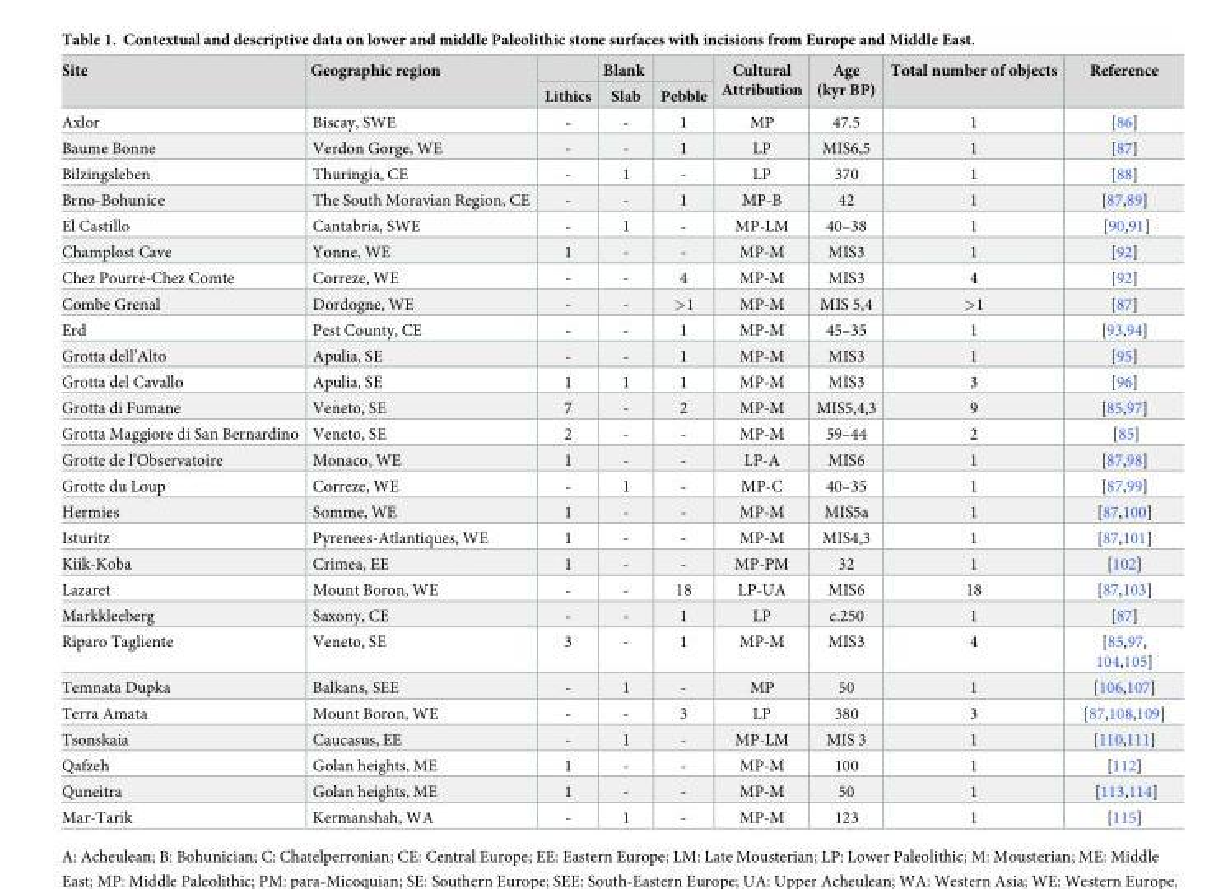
<table><thead><tr><td rowspan="2">Site</td><td rowspan="2">Geographic region</td><td rowspan="2">Lithics</td><td rowspan="2">Blank Slab</td><td rowspan="2">Pebble</td><td rowspan="2">Cultural Attribution</td><td rowspan="2">Age (kyr BP)</td><td rowspan="2">Total number of objects</td><td rowspan="2">Reference</td></tr><tr></tr></thead><tbody><tr><td>Axlor</td><td>Biscay, SWE</td><td>-</td><td>-</td><td>1</td><td>MP</td><td>47.5</td><td>1</td><td>[86]</td></tr><tr><td>Baume Bonne</td><td>Verdon Gorge, WE</td><td>-</td><td>-</td><td>1</td><td>LP</td><td>MIS6,5</td><td>1</td><td>[87]</td></tr><tr><td>Bilzingsleben</td><td>Thuringia, CE</td><td>-</td><td>1</td><td>-</td><td>LP</td><td>370</td><td>1</td><td>[88]</td></tr><tr><td>Brno-Bohunice</td><td>The South Moravian Region, CE</td><td>-</td><td>-</td><td>1</td><td>MP-B</td><td>42</td><td>1</td><td>[87,89]</td></tr><tr><td>El Castillo</td><td>Cantabria, SWE</td><td>-</td><td>1</td><td>-</td><td>MP-LM</td><td>40–38</td><td>1</td><td>[90,91]</td></tr><tr><td>Champlost Cave</td><td>Yonne, WE</td><td>1</td><td>-</td><td>-</td><td>MP-M</td><td>MIS3</td><td>1</td><td>[92]</td></tr><tr><td>Chez Pourre´-Chez Comte</td><td>Correze, WE</td><td>-</td><td>-</td><td>4</td><td>MP-M</td><td>MIS3</td><td>4</td><td>[92]</td></tr><tr><td>Combe Grenal</td><td>Dordogne, WE</td><td>-</td><td>-</td><td>&gt;1</td><td>MP-M</td><td>MIS 5,4</td><td>&gt;1</td><td>[87]</td></tr><tr><td>Erd</td><td>Pest County, CE</td><td>-</td><td>-</td><td>1</td><td>MP-M</td><td>45–35</td><td>1</td><td>[93,94]</td></tr><tr><td>Grotta dell’Alto</td><td>Apulia, SE</td><td>-</td><td>-</td><td>1</td><td>MP-M</td><td>MIS3</td><td>1</td><td>[95]</td></tr><tr><td>Grotta del Cavallo</td><td>Apulia, SE</td><td>1</td><td>1</td><td>1</td><td>MP-M</td><td>MIS3</td><td>3</td><td>[96]</td></tr><tr><td>Grotta di Fumane</td><td>Veneto, SE</td><td>7</td><td>-</td><td>2</td><td>MP-M</td><td>MIS5,4,3</td><td>9</td><td>[85,97]</td></tr><tr><td>Grotta Maggiore di San Bernardino</td><td>Veneto, SE</td><td>2</td><td>-</td><td>-</td><td>MP-M</td><td>59–44</td><td>2</td><td>[85]</td></tr><tr><td>Grotte de l’Observatoire</td><td>Monaco, WE</td><td>1</td><td>-</td><td>-</td><td>LP-A</td><td>MIS6</td><td>1</td><td>[87,98]</td></tr><tr><td>Grotte du Loup</td><td>Correze, WE</td><td>-</td><td>1</td><td>-</td><td>MP-C</td><td>40–35</td><td>1</td><td>[87,99]</td></tr><tr><td>Hermies</td><td>Somme, WE</td><td>1</td><td>-</td><td>-</td><td>MP-M</td><td>MIS5a</td><td>1</td><td>[87,100]</td></tr><tr><td>Isturitz</td><td>Pyrenees-Atlantiques, WE</td><td>1</td><td>-</td><td>-</td><td>MP-M</td><td>MIS4,3</td><td>1</td><td>[87,101]</td></tr><tr><td>Kiik-Koba</td><td>Crimea, EE</td><td>1</td><td>-</td><td>-</td><td>MP-PM</td><td>32</td><td>1</td><td>[102]</td></tr><tr><td>Lazaret</td><td>Mount Boron, WE</td><td>-</td><td>-</td><td>18</td><td>LP-UA</td><td>MIS6</td><td>18</td><td>[87,103]</td></tr><tr><td>Markkleeberg</td><td>Saxony, CE</td><td>-</td><td>-</td><td>1</td><td>LP</td><td>c.250</td><td>1</td><td>[87]</td></tr><tr><td>Riparo Tagliente</td><td>Veneto, SE</td><td>3</td><td>-</td><td>1</td><td>MP-M</td><td>MIS3</td><td>4</td><td>[85,97, 104,105]</td></tr><tr><td>Temnata Dupka</td><td>Balkans, SEE</td><td>-</td><td>1</td><td>-</td><td>MP</td><td>50</td><td>1</td><td>[106,107]</td></tr><tr><td>Terra Amata</td><td>Mount Boron, WE</td><td>-</td><td>-</td><td>3</td><td>LP</td><td>380</td><td>3</td><td>[87,108,109]</td></tr><tr><td>Tsonskaia</td><td>Caucasus, EE</td><td>-</td><td>1</td><td>-</td><td>MP-LM</td><td>MIS 3</td><td>1</td><td>[110,111]</td></tr><tr><td>Qafzeh</td><td>Golan heights, ME</td><td>1</td><td>-</td><td>-</td><td>MP-M</td><td>100</td><td>1</td><td>[112]</td></tr><tr><td>Quneitra</td><td>Golan heights, ME</td><td>1</td><td>-</td><td>-</td><td>MP-M</td><td>50</td><td>1</td><td>[113,114]</td></tr><tr><td>Mar-Tarik</td><td>Kermanshah, WA</td><td>-</td><td>1</td><td>-</td><td>MP-M</td><td>123</td><td>1</td><td>[115]</td></tr></tbody></table>